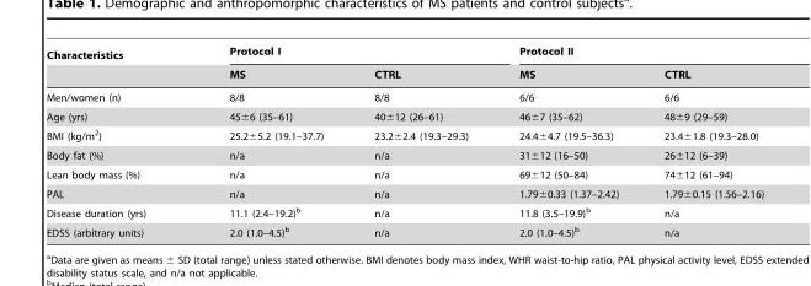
<table><thead><tr><td rowspan="2">Characteristics</td><td colspan="2">Protocol I</td><td colspan="2">Protocol II</td></tr><tr><td>MS</td><td>CTRL</td><td>MS</td><td>CTRL</td></tr></thead><tbody><tr><td>Men/women (n)</td><td>8/8</td><td>8/8</td><td>6/6</td><td>6/6</td></tr><tr><td>Age (yrs)</td><td>45±6 (35–61)</td><td>40±12 (26–61)</td><td>46±7 (35–62)</td><td>48±9 (29–59)</td></tr><tr><td>BMI (kg/m<sup>2</sup>)</td><td>25.2±5.2 (19.1–37.7)</td><td>23.2±2.4 (19.3–29.3)</td><td>24.4±4.7 (19.5–36.3)</td><td>23.4±1.8 (19.3–28.0)</td></tr><tr><td>Body fat (%)</td><td>n/a</td><td>n/a</td><td>31±12 (16–50)</td><td>26±12 (6–39)</td></tr><tr><td>Lean body mass (%)</td><td>n/a</td><td>n/a</td><td>69±12 (50–84)</td><td>74±12 (61–94)</td></tr><tr><td>PAL</td><td>n/a</td><td>n/a</td><td>1.79±0.33 (1.37–2.42)</td><td>1.79±0.15 (1.56–2.16)</td></tr><tr><td>Disease duration (yrs)</td><td>11.1 (2.4–19.2)<sup>b</sup></td><td>n/a</td><td>11.8 (3.5–19.9)<sup>b</sup></td><td>n/a</td></tr><tr><td>EDSS (arbitrary units)</td><td>2.0 (1.0–4.5)<sup>b</sup></td><td>n/a</td><td>2.0 (1.0–4.5)<sup>b</sup></td><td>n/a</td></tr></tbody></table>